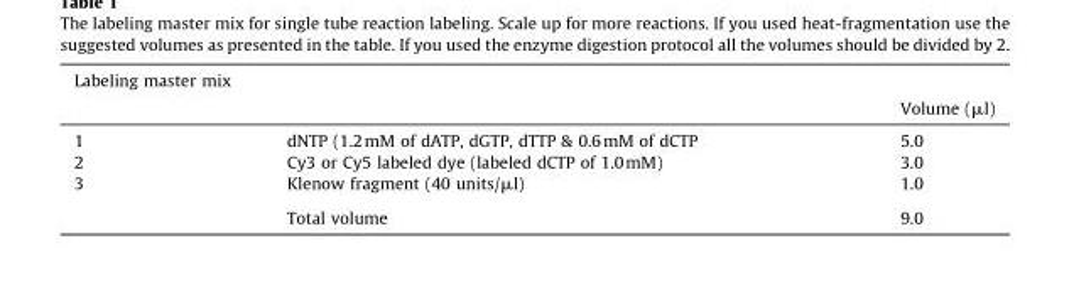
<table><thead><tr><td colspan="3">Labeling master mix</td></tr><tr><td></td><td></td><td>Volume (μl)</td></tr></thead><tbody><tr><td>1</td><td>dNTP (1.2mM of dATP, dGTP, dTTP &amp; 0.6mM of dCTP</td><td>5.0</td></tr><tr><td>2</td><td>Cy3 or Cy5 labeled dye (labeled dCTP of 1.0mM)</td><td>3.0</td></tr><tr><td rowspan="2">3</td><td>Klenow fragment (40 units/μl)</td><td>1.0</td></tr><tr><td>Total volume</td><td>9.0</td></tr></tbody></table>